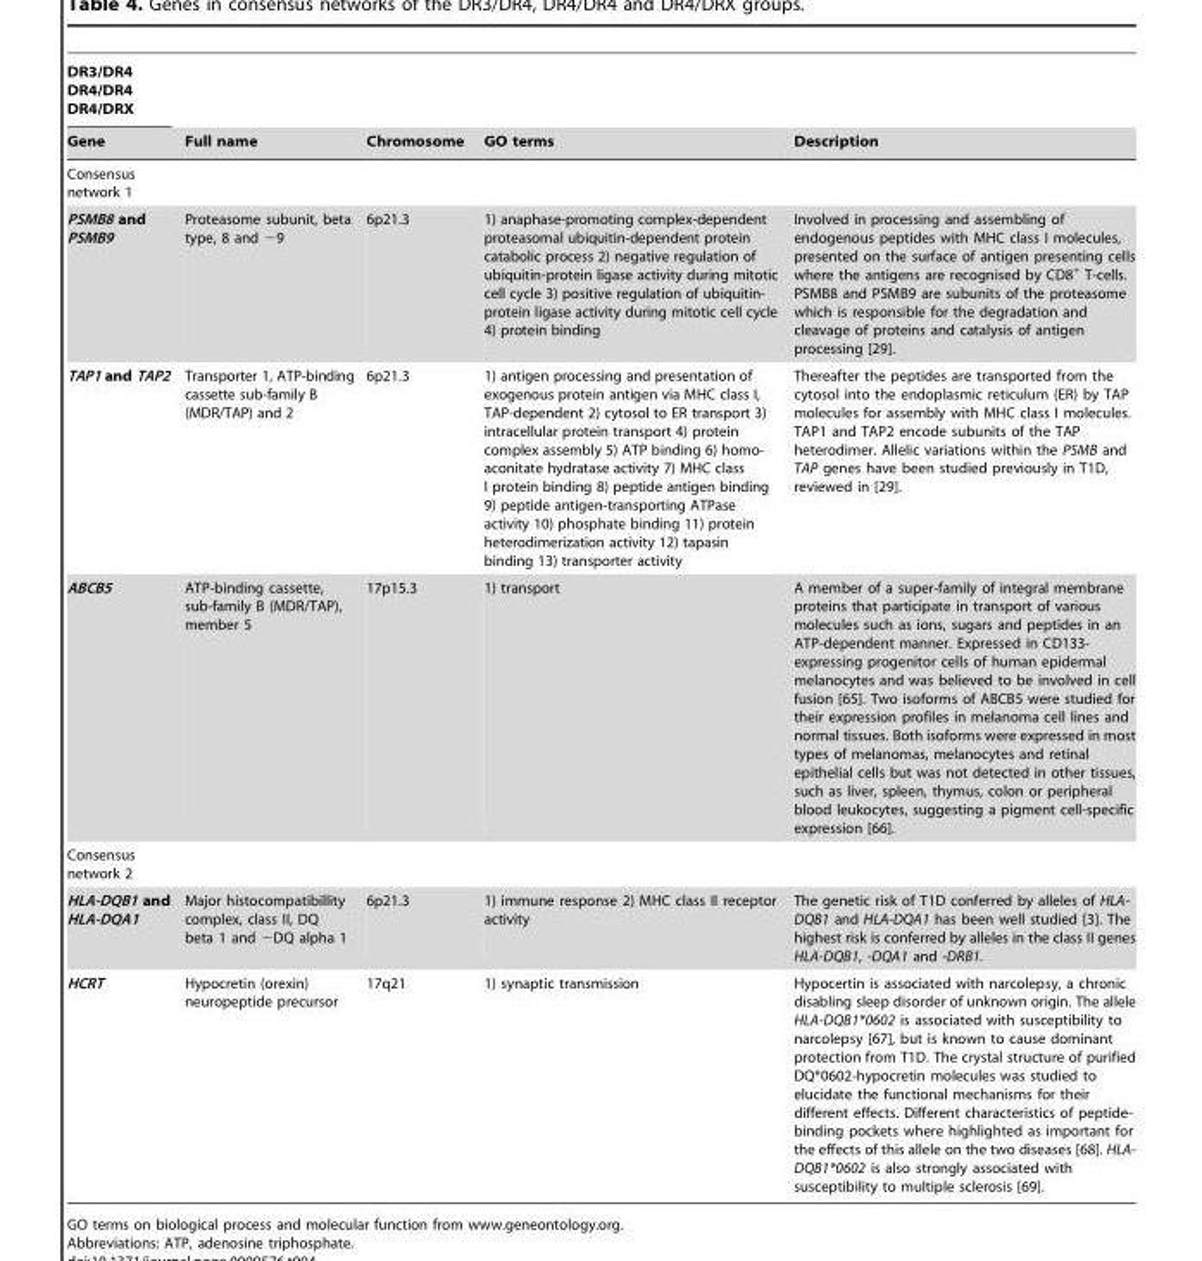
<table><thead><tr><td rowspan="2">DR3/DR4 DR4/DR4 DR4/DRX Gene</td><td rowspan="2">Full name</td><td rowspan="2">Chromosome</td><td rowspan="2">GO terms</td><td rowspan="2">Description</td></tr><tr></tr></thead><tbody><tr><td colspan="5">Consensus network 1</td></tr><tr><td>PSMB8 and PSMB9</td><td>Proteasome subunit, beta type, 8 and −9</td><td>6p21.3</td><td>1) anaphase-promoting complex-dependent proteasomal ubiquitin-dependent protein catabolic process 2) negative regulation of ubiquitin-protein ligase activity during mitotic cell cycle 3) positive regulation of ubiquitin- protein ligase activity during mitotic cell cycle 4) protein binding</td><td>Involved in processing and assembling of endogenous peptides with MHC class I molecules, presented on the surface of antigen presenting cells where the antigens are recognised by CD8<sup>+</sup> T-cells. PSMB8 and PSMB9 are subunits of the proteasome which is responsible for the degradation and cleavage of proteins and catalysis of antigen processing [29].</td></tr><tr><td>TAP1 and TAP2</td><td>Transporter 1, ATP-binding cassette sub-family B (MDR/TAP) and 2</td><td>6p21.3</td><td>1) antigen processing and presentation of exogenous protein antigen via MHC class I, TAP-dependent 2) cytosol to ER transport 3) intracellular protein transport 4) protein complex assembly 5) ATP binding 6) homo- aconitate hydratase activity 7) MHC class I protein binding 8) peptide antigen binding 9) peptide antigen-transporting ATPase activity 10) phosphate binding 11) protein heterodimerization activity 12) tapasin binding 13) transporter activity</td><td>Thereafter the peptides are transported from the cytosol into the endoplasmic reticulum (ER) by TAP molecules for assembly with MHC class I molecules. TAP1 and TAP2 encode subunits of the TAP heterodimer. Allelic variations within the PSMB and TAP genes have been studied previously in T1D, reviewed in [29].</td></tr><tr><td>ABCB5</td><td>ATP-binding cassette, sub-family B (MDR/TAP), member 5</td><td>17p15.3</td><td>1) transport</td><td>A member of a super-family of integral membrane proteins that participate in transport of various molecules such as ions, sugars and peptides in an ATP-dependent manner. Expressed in CD133- expressing progenitor cells of human epidermal melanocytes and was believed to be involved in cell fusion [65]. Two isoforms of ABCB5 were studied for their expression profiles in melanoma cell lines and normal tissues. Both isoforms were expressed in most types of melanomas, melanocytes and retinal epithelial cells but was not detected in other tissues, such as liver, spleen, thymus, colon or peripheral blood leukocytes, suggesting a pigment cell-specific expression [66].</td></tr><tr><td colspan="5">Consensus network 2</td></tr><tr><td>HLA-DQB1 and HLA-DQA1</td><td>Major histocompatibillity complex, class II, DQ beta 1 and −DQ alpha 1</td><td>6p21.3</td><td>1) immune response 2) MHC class II receptor activity</td><td>The genetic risk of T1D conferred by alleles of HLA- DQB1 and HLA-DQA1 has been well studied [3]. The highest risk is conferred by alleles in the class II genes HLA-DQB1, -DQA1 and -DRB1.</td></tr><tr><td>HCRT</td><td>Hypocretin (orexin) neuropeptide precursor</td><td>17q21</td><td>1) synaptic transmission</td><td>Hypocertin is associated with narcolepsy, a chronic disabling sleep disorder of unknown origin. The allele HLA-DQB1*0602 is associated with susceptibility to narcolepsy [67], but is known to cause dominant protection from T1D. The crystal structure of purified DQ*0602-hypocretin molecules was studied to elucidate the functional mechanisms for their different effects. Different characteristics of peptide- binding pockets where highlighted as important for the effects of this allele on the two diseases [68]. HLA- DQB1*0602 is also strongly associated with susceptibility to multiple sclerosis [69].</td></tr></tbody></table>